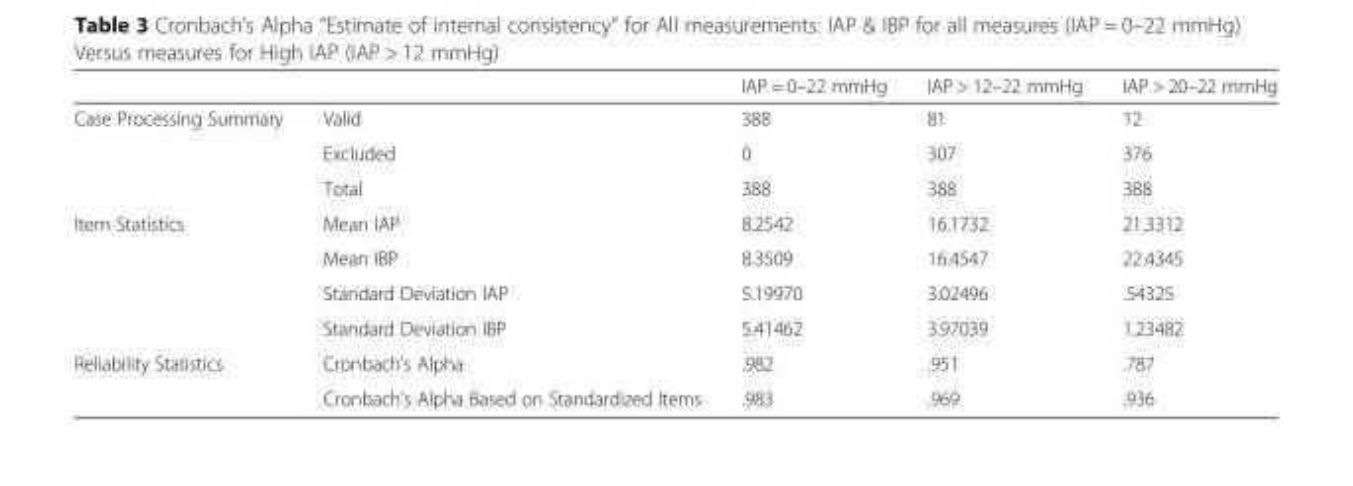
<table><thead><tr><td></td><td></td><td>IAP = 0–22 mmHg</td><td>IAP &gt; 12–22 mmHg</td><td>IAP &gt; 20–22 mmHg</td></tr></thead><tbody><tr><td rowspan="3">Case Processing Summary</td><td>Valid</td><td>388</td><td>81</td><td>12</td></tr><tr><td>Excluded</td><td>0</td><td>307</td><td>376</td></tr><tr><td>Total</td><td>388</td><td>388</td><td>388</td></tr><tr><td rowspan="4">Item Statistics</td><td>Mean IAP</td><td>8.2542</td><td>16.1732</td><td>21.3312</td></tr><tr><td>Mean IBP</td><td>8.3509</td><td>16.4547</td><td>22.4345</td></tr><tr><td>Standard Deviation IAP</td><td>5.19970</td><td>3.02496</td><td>.54325</td></tr><tr><td>Standard Deviation IBP</td><td>5.41462</td><td>3.97039</td><td>1.23482</td></tr><tr><td rowspan="2">Reliability Statistics</td><td>Cronbach’s Alpha</td><td>.982</td><td>.951</td><td>.787</td></tr><tr><td>Cronbach’s Alpha Based on Standardized Items</td><td>.983</td><td>.969</td><td>.936</td></tr></tbody></table>